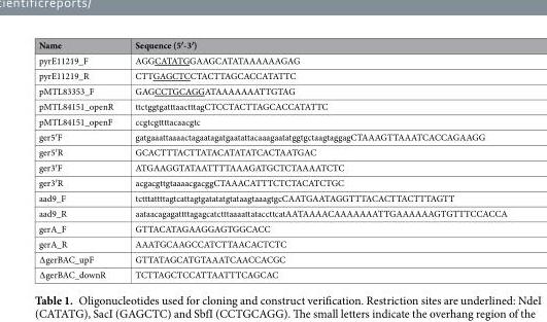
<table><thead><tr><td>Name</td><td>Sequence (5′-3′)</td></tr></thead><tbody><tr><td>pyrE11219_F</td><td>AGGCATATGGAAGCATATAAAAAAGAG</td></tr><tr><td>pyrE11219_R</td><td>CTTGAGCTCCTACTTAGCACCATATTC</td></tr><tr><td>pMTL83353_F</td><td>GAGCCTGCAGGATAAAAAAATTGTAG</td></tr><tr><td>pMTL84151_openR</td><td>ttctggtgatttaactttagCTCCTACTTAGCACCATATTC</td></tr><tr><td>pMTL84151_openF</td><td>ccgtcgttttacaacgtc</td></tr><tr><td>ger5′F</td><td>gatgaaattaaaactagaatagatgaatattacaaagaatatggtgctaagtaggagCTAAAGTTAAATCACCAGAAGG</td></tr><tr><td>ger5′R</td><td>GCACTTTACTTATACATATATCACTAATGAC</td></tr><tr><td>ger3′F</td><td>ATGAAGGTATAATTTTAAAGATGCTCTAAAATCTC</td></tr><tr><td>ger3′R</td><td>acgacgttgtaaaacgacggCTAAACATTTCTCTACATCTGC</td></tr><tr><td>aad9_F</td><td>tctttattttagtcattagtgatatatgtataagtaaagtgcCAATGAATAGGTTTACACTTACTTTAGTT</td></tr><tr><td>aad9_R</td><td>aataacagagattttagagcatctttaaaattataccttcatAATAAAACAAAAAAATTGAAAAAAGTGTTTCCACCA</td></tr><tr><td>gerA_F</td><td>GTTACATAGAAGGAGTGGCACC</td></tr><tr><td>gerA_R</td><td>AAATGCAAGCCATCTTAACACTCTC</td></tr><tr><td>∆gerBAC_upF</td><td>GTTATAGCATGTAAATCAACCACGC</td></tr><tr><td>∆gerBAC_downR</td><td>TCTTAGCTCCATTAATTTCAGCAC</td></tr></tbody></table>